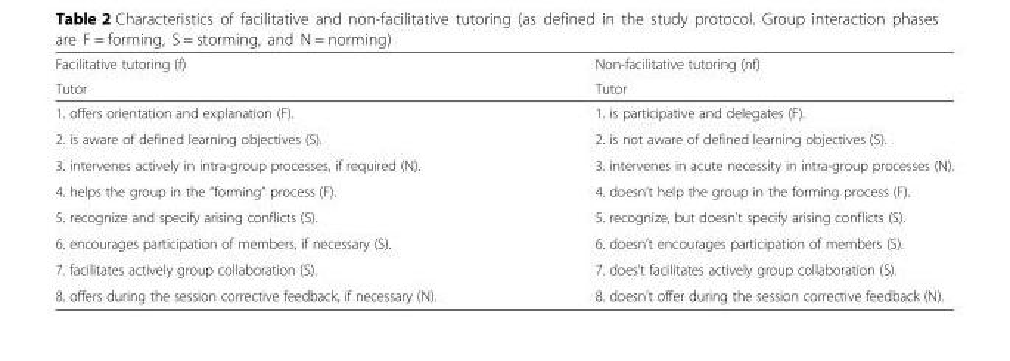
<table><thead><tr><td rowspan="2">Facilitative tutoring (f) Tutor</td><td rowspan="2">Non-facilitative tutoring (nf) Tutor</td></tr><tr></tr></thead><tbody><tr><td>1. offers orientation and explanation (F).</td><td>1. is participative and delegates (F).</td></tr><tr><td>2. is aware of defined learning objectives (S).</td><td>2. is not aware of defined learning objectives (S).</td></tr><tr><td>3. intervenes actively in intra-group processes, if required (N).</td><td>3. intervenes in acute necessity in intra-group processes (N).</td></tr><tr><td>4. helps the group in the “forming” process (F).</td><td>4. doesn’t help the group in the forming process (F).</td></tr><tr><td>5. recognize and specify arising conflicts (S).</td><td>5. recognize, but doesn’t specify arising conflicts (S).</td></tr><tr><td>6. encourages participation of members, if necessary (S).</td><td>6. doesn’t encourages participation of members (S).</td></tr><tr><td>7. facilitates actively group collaboration (S).</td><td>7. does’t facilitates actively group collaboration (S).</td></tr><tr><td>8. offers during the session corrective feedback, if necessary (N).</td><td>8. doesn’t offer during the session corrective feedback (N).</td></tr></tbody></table>